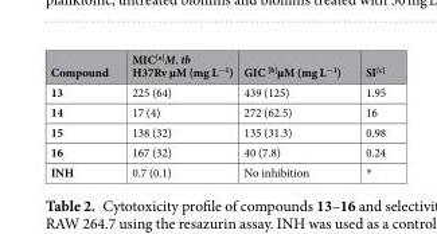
<table><thead><tr><td>Compound</td><td>MIC<sup>[a]</sup>M. tb H37Rv µM (mg L<sup>−1</sup>)</td><td>GIC <sup>[b]</sup>µM (mg L<sup>−1</sup>)</td><td>SI<sup>[c]</sup></td></tr></thead><tbody><tr><td>13</td><td>225 (64)</td><td>439 (125)</td><td>1.95</td></tr><tr><td>14</td><td>17 (4)</td><td>272 (62.5)</td><td>16</td></tr><tr><td>15</td><td>138 (32)</td><td>135 (31.3)</td><td>0.98</td></tr><tr><td>16</td><td>167 (32)</td><td>40 (7.8)</td><td>0.24</td></tr><tr><td>INH</td><td>0.7 (0.1)</td><td>No inhibition</td><td>*</td></tr></tbody></table>